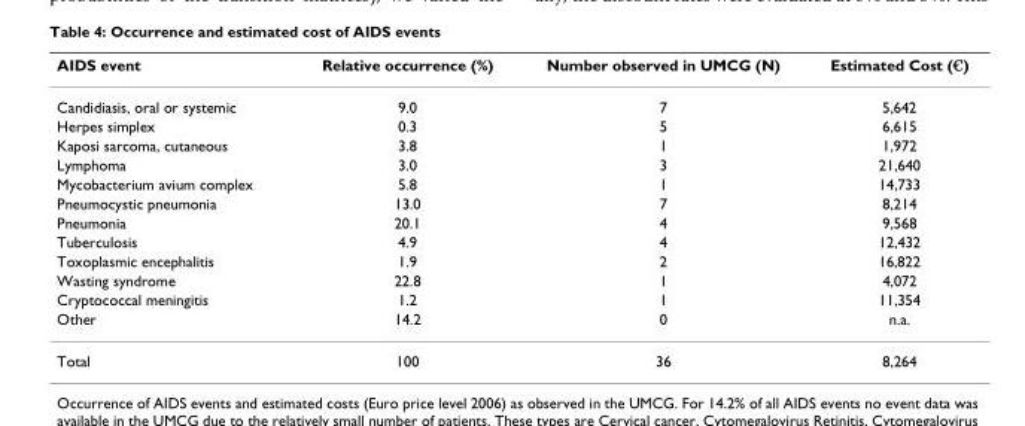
<table><thead><tr><td>AIDS event</td><td>Relative occurrence (%)</td><td>Number observed in UMCG (N)</td><td>Estimated Cost (€)</td></tr></thead><tbody><tr><td>Candidiasis, oral or systemic</td><td>9.0</td><td>7</td><td>5,642</td></tr><tr><td>Herpes simplex</td><td>0.3</td><td>5</td><td>6,615</td></tr><tr><td>Kaposi sarcoma, cutaneous</td><td>3.8</td><td>1</td><td>1,972</td></tr><tr><td>Lymphoma</td><td>3.0</td><td>3</td><td>21,640</td></tr><tr><td>Mycobacterium avium complex</td><td>5.8</td><td>1</td><td>14,733</td></tr><tr><td>Pneumocystic pneumonia</td><td>13.0</td><td>7</td><td>8,214</td></tr><tr><td>Pneumonia</td><td>20.1</td><td>4</td><td>9,568</td></tr><tr><td>Tuberculosis</td><td>4.9</td><td>4</td><td>12,432</td></tr><tr><td>Toxoplasmic encephalitis</td><td>1.9</td><td>2</td><td>16,822</td></tr><tr><td>Wasting syndrome</td><td>22.8</td><td>1</td><td>4,072</td></tr><tr><td>Cryptococcal meningitis</td><td>1.2</td><td>1</td><td>11,354</td></tr><tr><td>Other</td><td>14.2</td><td>0</td><td>n.a.</td></tr><tr><td>Total</td><td>100</td><td>36</td><td>8,264</td></tr></tbody></table>